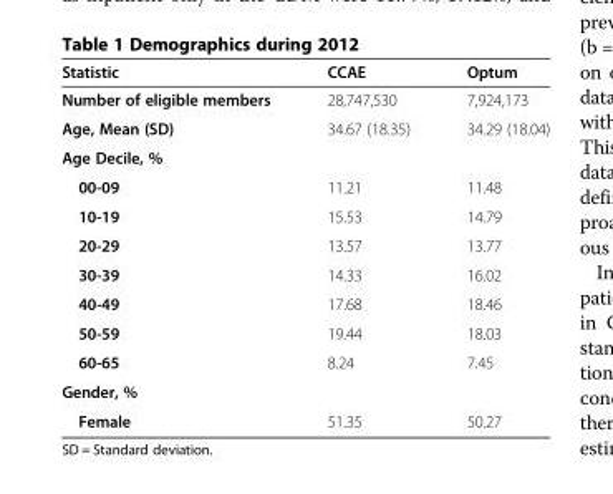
<table><thead><tr><td>Statistic</td><td>CCAE</td><td>Optum</td></tr></thead><tbody><tr><td>Number of eligible members</td><td>28,747,530</td><td>7,924,173</td></tr><tr><td>Age, Mean (SD)</td><td>34.67 (18.35)</td><td>34.29 (18.04)</td></tr><tr><td colspan="3">Age Decile, %</td></tr><tr><td>00-09</td><td>11.21</td><td>11.48</td></tr><tr><td>10-19</td><td>15.53</td><td>14.79</td></tr><tr><td>20-29</td><td>13.57</td><td>13.77</td></tr><tr><td>30-39</td><td>14.33</td><td>16.02</td></tr><tr><td>40-49</td><td>17.68</td><td>18.46</td></tr><tr><td>50-59</td><td>19.44</td><td>18.03</td></tr><tr><td>60-65</td><td>8.24</td><td>7.45</td></tr><tr><td colspan="3">Gender, %</td></tr><tr><td>Female</td><td>51.35</td><td>50.27</td></tr></tbody></table>